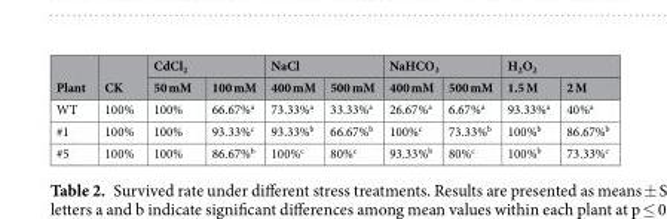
<table><thead><tr><td rowspan="2">Plant</td><td rowspan="2">CK</td><td colspan="2">CdCl<sub>2</sub></td><td colspan="2">NaCl</td><td colspan="2">NaHCO<sub>3</sub></td><td colspan="2">H<sub>2</sub>O<sub>2</sub></td></tr><tr><td>50 mM</td><td>100 mM</td><td>400 mM</td><td>500 mM</td><td>400 mM</td><td>500 mM</td><td>1.5 M</td><td>2 M</td></tr></thead><tbody><tr><td>WT</td><td>100%</td><td>100%</td><td>66.67%<sup>a</sup></td><td>73.33%<sup>a</sup></td><td>33.33%<sup>a</sup></td><td>26.67%<sup>a</sup></td><td>6.67%<sup>a</sup></td><td>93.33%<sup>a</sup></td><td>40%<sup>a</sup></td></tr><tr><td>#1</td><td>100%</td><td>100%</td><td>93.33%<sup>c</sup></td><td>93.33%<sup>b</sup></td><td>66.67%<sup>b</sup></td><td>100%<sup>c</sup></td><td>73.33%<sup>b</sup></td><td>100%<sup>b</sup></td><td>86.67%<sup>b</sup></td></tr><tr><td>#5</td><td>100%</td><td>100%</td><td>86.67%<sup>b</sup></td><td>100%<sup>c</sup></td><td>80%<sup>c</sup></td><td>93.33%<sup>b</sup></td><td>80%<sup>c</sup></td><td>100%<sup>b</sup></td><td>73.33%<sup>c</sup></td></tr></tbody></table>